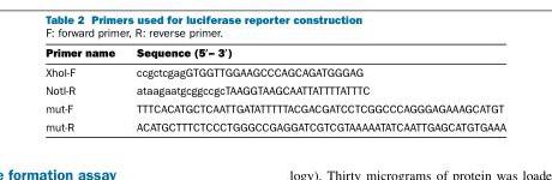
<table><thead><tr><td>Primer name</td><td>Sequence (5′– 3′)</td></tr></thead><tbody><tr><td>XhoI-F</td><td>ccgctcgagGTGGTTGGAAGCCCAGCAGATGGGAG</td></tr><tr><td>NotI-R</td><td>ataagaatgcggccgcTAAGGTAAGCAATTATTTTATTTC</td></tr><tr><td>mut-F</td><td>TTTCACATGCTCAATTGATATTTTTACGACGATCCTCGGCCCAGGGAGAAAGCATGT</td></tr><tr><td>mut-R</td><td>ACATGCTTTCTCCCTGGGCCGAGGATCGTCGTAAAAATATCAATTGAGCATGTGAAA</td></tr></tbody></table>